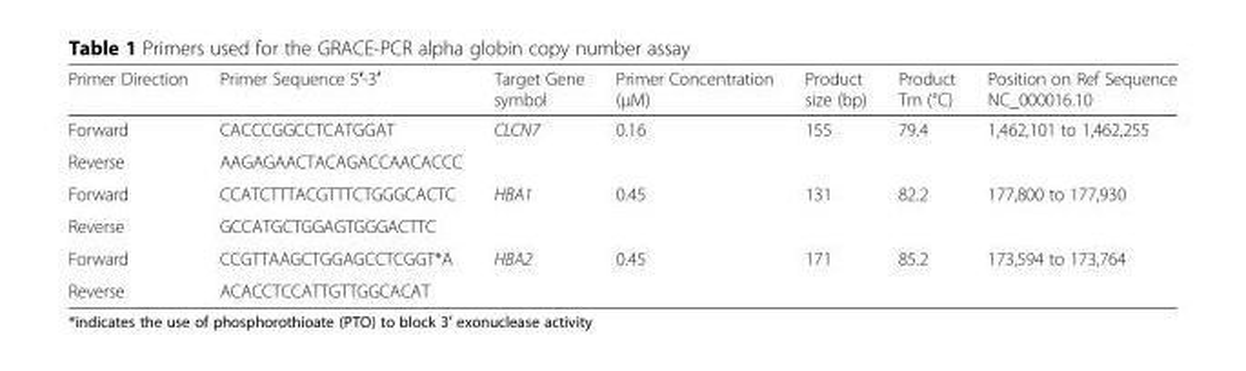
<table><thead><tr><td>Primer Direction</td><td>Primer Sequence 5′-3′</td><td>Target Gene symbol</td><td>Primer Concentration (μM)</td><td>Product size (bp)</td><td>Product Tm (°C)</td><td>Position on Ref Sequence NC_000016.10</td></tr></thead><tbody><tr><td>Forward</td><td>CACCCGGCCTCATGGAT</td><td rowspan="2">CLCN7</td><td rowspan="2">0.16</td><td rowspan="2">155</td><td rowspan="2">79.4</td><td rowspan="2">1,462,101 to 1,462,255</td></tr><tr><td>Reverse</td><td>AAGAGAACTACAGACCAACACCC</td></tr><tr><td>Forward</td><td>CCATCTTTACGTTTCTGGGCACTC</td><td rowspan="2">HBA1</td><td rowspan="2">0.45</td><td rowspan="2">131</td><td rowspan="2">82.2</td><td rowspan="2">177,800 to 177,930</td></tr><tr><td>Reverse</td><td>GCCATGCTGGAGTGGGACTTC</td></tr><tr><td>Forward</td><td>CCGTTAAGCTGGAGCCTCGGT*A</td><td rowspan="2">HBA2</td><td rowspan="2">0.45</td><td rowspan="2">171</td><td rowspan="2">85.2</td><td rowspan="2">173,594 to 173,764</td></tr><tr><td>Reverse</td><td>ACACCTCCATTGTTGGCACAT</td></tr></tbody></table>